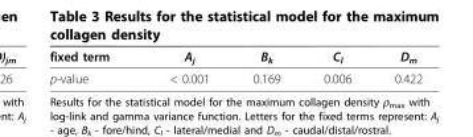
<table><thead><tr><td>fixed term</td><td>A<sub>j</sub></td><td>B<sub>k</sub></td><td>C<sub>l</sub></td><td>D<sub>m</sub></td></tr></thead><tbody><tr><td>p-value</td><td>&lt; 0.001</td><td>0.169</td><td>0.006</td><td>0.422</td></tr></tbody></table>